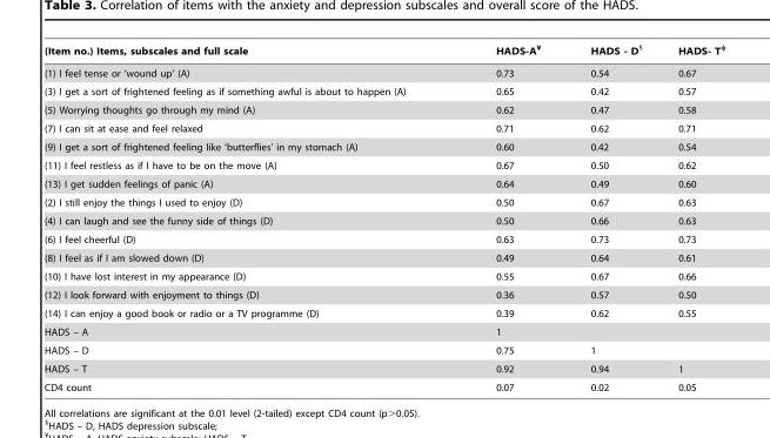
<table><thead><tr><td>(Item no.) Items, subscales and full scale</td><td>HADS-A¥</td><td>HADS - D§</td><td>HADS- Tφ</td></tr></thead><tbody><tr><td>(1) I feel tense or ‘wound up’ (A)</td><td>0.73</td><td>0.54</td><td>0.67</td></tr><tr><td>(3) I get a sort of frightened feeling as if something awful is about to happen (A)</td><td>0.65</td><td>0.42</td><td>0.57</td></tr><tr><td>(5) Worrying thoughts go through my mind (A)</td><td>0.62</td><td>0.47</td><td>0.58</td></tr><tr><td>(7) I can sit at ease and feel relaxed</td><td>0.71</td><td>0.62</td><td>0.71</td></tr><tr><td>(9) I get a sort of frightened feeling like ‘butterflies’ in my stomach (A)</td><td>0.60</td><td>0.42</td><td>0.54</td></tr><tr><td>(11) I feel restless as if I have to be on the move (A)</td><td>0.67</td><td>0.50</td><td>0.62</td></tr><tr><td>(13) I get sudden feelings of panic (A)</td><td>0.64</td><td>0.49</td><td>0.60</td></tr><tr><td>(2) I still enjoy the things I used to enjoy (D)</td><td>0.50</td><td>0.67</td><td>0.63</td></tr><tr><td>(4) I can laugh and see the funny side of things (D)</td><td>0.50</td><td>0.66</td><td>0.63</td></tr><tr><td>(6) I feel cheerful (D)</td><td>0.63</td><td>0.73</td><td>0.73</td></tr><tr><td>(8) I feel as if I am slowed down (D)</td><td>0.49</td><td>0.64</td><td>0.61</td></tr><tr><td>(10) I have lost interest in my appearance (D)</td><td>0.55</td><td>0.67</td><td>0.66</td></tr><tr><td>(12) I look forward with enjoyment to things (D)</td><td>0.36</td><td>0.57</td><td>0.50</td></tr><tr><td>(14) I can enjoy a good book or radio or a TV programme (D)</td><td>0.39</td><td>0.62</td><td>0.55</td></tr><tr><td>HADS – A</td><td>1</td><td></td><td></td></tr><tr><td>HADS – D</td><td>0.75</td><td>1</td><td></td></tr><tr><td>HADS – T</td><td>0.92</td><td>0.94</td><td>1</td></tr><tr><td>CD4 count</td><td>0.07</td><td>0.02</td><td>0.05</td></tr></tbody></table>